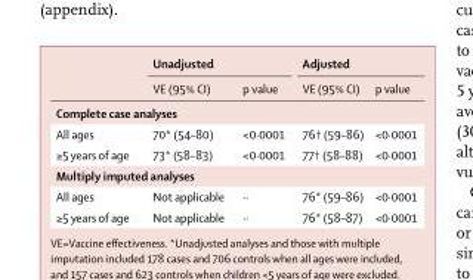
<table><thead><tr><td rowspan="2"></td><td colspan="2">Unadjusted</td><td colspan="2">Adjusted</td></tr><tr><td>VE (95% CI)</td><td>p value</td><td>VE (95% CI)</td><td>p value</td></tr></thead><tbody><tr><td colspan="5">Complete case analyses</td></tr><tr><td>All ages</td><td>70* (54–80)</td><td>&lt;0·0001</td><td>76† (59–86)</td><td>&lt;0·0001</td></tr><tr><td>≥5 years of age</td><td>73* (58–83)</td><td>&lt;0·0001</td><td>77† (58–88)</td><td>&lt;0·0001</td></tr><tr><td colspan="5">Multiply imputed analyses</td></tr><tr><td>All ages</td><td>Not applicable</td><td>··</td><td>76* (59–86)</td><td>&lt;0·0001</td></tr><tr><td>≥5 years of age</td><td>Not applicable</td><td>··</td><td>76* (58–87)</td><td>&lt;0·0001</td></tr></tbody></table>